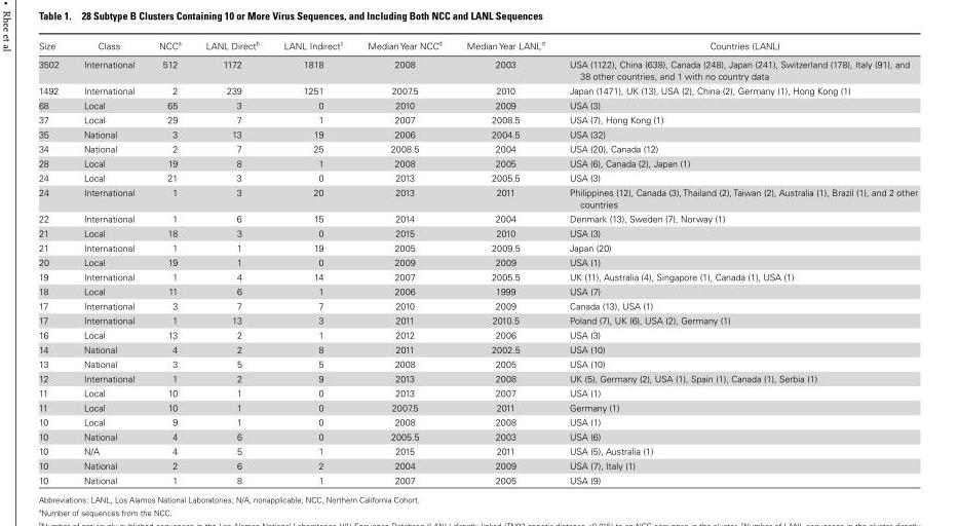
<table><thead><tr><td>Size</td><td>Class</td><td>NCC<sup>a</sup></td><td>LANL Direct<sup>b</sup></td><td>LANL Indirect<sup>c</sup></td><td>Median Year NCC<sup>d</sup></td><td>Median Year LANL<sup>d</sup></td><td>Countries (LANL)</td></tr></thead><tbody><tr><td>3502</td><td>International</td><td>512</td><td>1172</td><td>1818</td><td>2008</td><td>2003</td><td>USA (1122), China (638), Canada (248), Japan (241), Switzerland (178), Italy (91), and 38 other countries, and 1 with no country data</td></tr><tr><td>1492</td><td>International</td><td>2</td><td>239</td><td>1251</td><td>2007.5</td><td>2010</td><td>Japan (1471), UK (13), USA (2), China (2), Germany (1), Hong Kong (1)</td></tr><tr><td>68</td><td>Local</td><td>65</td><td>3</td><td>0</td><td>2010</td><td>2009</td><td>USA (3)</td></tr><tr><td>37</td><td>Local</td><td>29</td><td>7</td><td>1</td><td>2007</td><td>2008.5</td><td>USA (7), Hong Kong (1)</td></tr><tr><td>35</td><td>National</td><td>3</td><td>13</td><td>19</td><td>2006</td><td>2004.5</td><td>USA (32)</td></tr><tr><td>34</td><td>National</td><td>2</td><td>7</td><td>25</td><td>2008.5</td><td>2004</td><td>USA (20), Canada (12)</td></tr><tr><td>28</td><td>Local</td><td>19</td><td>8</td><td>1</td><td>2008</td><td>2005</td><td>USA (6), Canada (2), Japan (1)</td></tr><tr><td>24</td><td>Local</td><td>21</td><td>3</td><td>0</td><td>2013</td><td>2005.5</td><td>USA (3)</td></tr><tr><td>24</td><td>International</td><td>1</td><td>3</td><td>20</td><td>2013</td><td>2011</td><td>Philippines (12), Canada (3), Thailand (2), Taiwan (2), Australia (1), Brazil (1), and 2 other countries</td></tr><tr><td>22</td><td>International</td><td>1</td><td>6</td><td>15</td><td>2014</td><td>2004</td><td>Denmark (13), Sweden (7), Norway (1)</td></tr><tr><td>21</td><td>Local</td><td>18</td><td>3</td><td>0</td><td>2015</td><td>2010</td><td>USA (3)</td></tr><tr><td>21</td><td>International</td><td>1</td><td>1</td><td>19</td><td>2005</td><td>2009.5</td><td>Japan (20)</td></tr><tr><td>20</td><td>Local</td><td>19</td><td>1</td><td>0</td><td>2009</td><td>2009</td><td>USA (1)</td></tr><tr><td>19</td><td>International</td><td>1</td><td>4</td><td>14</td><td>2007</td><td>2005.5</td><td>UK (11), Australia (4), Singapore (1), Canada (1), USA (1)</td></tr><tr><td>18</td><td>Local</td><td>11</td><td>6</td><td>1</td><td>2006</td><td>1999</td><td>USA (7)</td></tr><tr><td>17</td><td>International</td><td>3</td><td>7</td><td>7</td><td>2010</td><td>2009</td><td>Canada (13), USA (1)</td></tr><tr><td>17</td><td>International</td><td>1</td><td>13</td><td>3</td><td>2011</td><td>2010.5</td><td>Poland (7), UK (6), USA (2), Germany (1)</td></tr><tr><td>16</td><td>Local</td><td>13</td><td>2</td><td>1</td><td>2012</td><td>2006</td><td>USA (3)</td></tr><tr><td>14</td><td>National</td><td>4</td><td>2</td><td>8</td><td>2011</td><td>2002.5</td><td>USA (10)</td></tr><tr><td>13</td><td>National</td><td>3</td><td>5</td><td>5</td><td>2008</td><td>2005</td><td>USA (10)</td></tr><tr><td>12</td><td>International</td><td>1</td><td>2</td><td>9</td><td>2013</td><td>2008</td><td>UK (5), Germany (2), USA (1), Spain (1), Canada (1), Serbia (1)</td></tr><tr><td>11</td><td>Local</td><td>10</td><td>1</td><td>0</td><td>2013</td><td>2007</td><td>USA (1)</td></tr><tr><td>11</td><td>Local</td><td>10</td><td>1</td><td>0</td><td>2007.5</td><td>2011</td><td>Germany (1)</td></tr><tr><td>10</td><td>Local</td><td>9</td><td>1</td><td>0</td><td>2008</td><td>2008</td><td>USA (1)</td></tr><tr><td>10</td><td>National</td><td>4</td><td>6</td><td>0</td><td>2005.5</td><td>2003</td><td>USA (6)</td></tr><tr><td>10</td><td>N/A</td><td>4</td><td>5</td><td>1</td><td>2015</td><td>2011</td><td>USA (5), Australia (1)</td></tr><tr><td>10</td><td>National</td><td>2</td><td>6</td><td>2</td><td>2004</td><td>2009</td><td>USA (7), Italy (1)</td></tr><tr><td>10</td><td>National</td><td>1</td><td>8</td><td>1</td><td>2007</td><td>2005</td><td>USA (9)</td></tr></tbody></table>